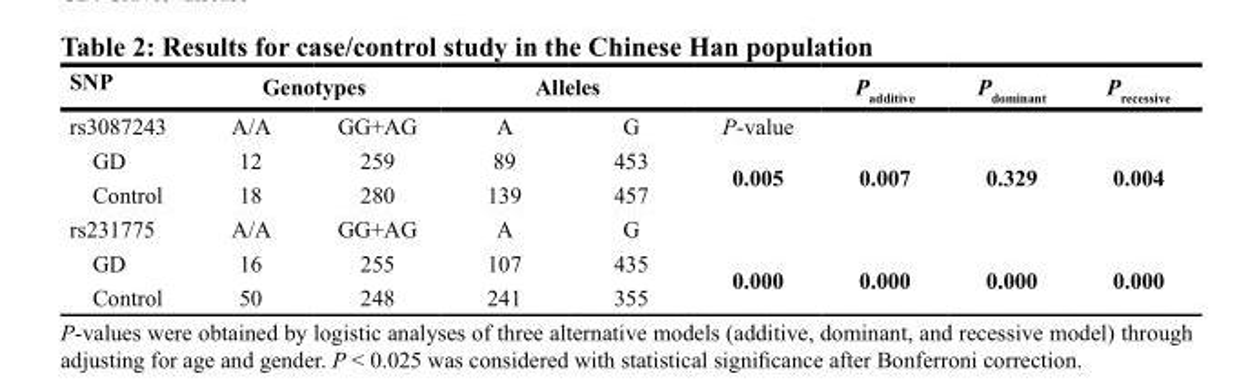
<table><thead><tr><td rowspan="2">SNP rs3087243</td><td colspan="2">Genotypes</td><td colspan="2">Alleles</td><td rowspan="2">P-value</td><td rowspan="2">P<sub>additive</sub></td><td rowspan="2">P<sub>dominant</sub></td><td rowspan="2">P<sub>recessive</sub></td></tr><tr><td>A/A</td><td>GG+AG</td><td>A</td><td>G</td></tr></thead><tbody><tr><td>GD</td><td>12</td><td>259</td><td>89</td><td>453</td><td rowspan="2">0.005</td><td rowspan="2">0.007</td><td rowspan="2">0.329</td><td rowspan="2">0.004</td></tr><tr><td>Control</td><td>18</td><td>280</td><td>139</td><td>457</td></tr><tr><td>rs231775</td><td>A/A</td><td>GG+AG</td><td>A</td><td>G</td><td></td><td></td><td></td><td></td></tr><tr><td>GD</td><td>16</td><td>255</td><td>107</td><td>435</td><td rowspan="2">0.000</td><td rowspan="2">0.000</td><td rowspan="2">0.000</td><td rowspan="2">0.000</td></tr><tr><td>Control</td><td>50</td><td>248</td><td>241</td><td>355</td></tr></tbody></table>